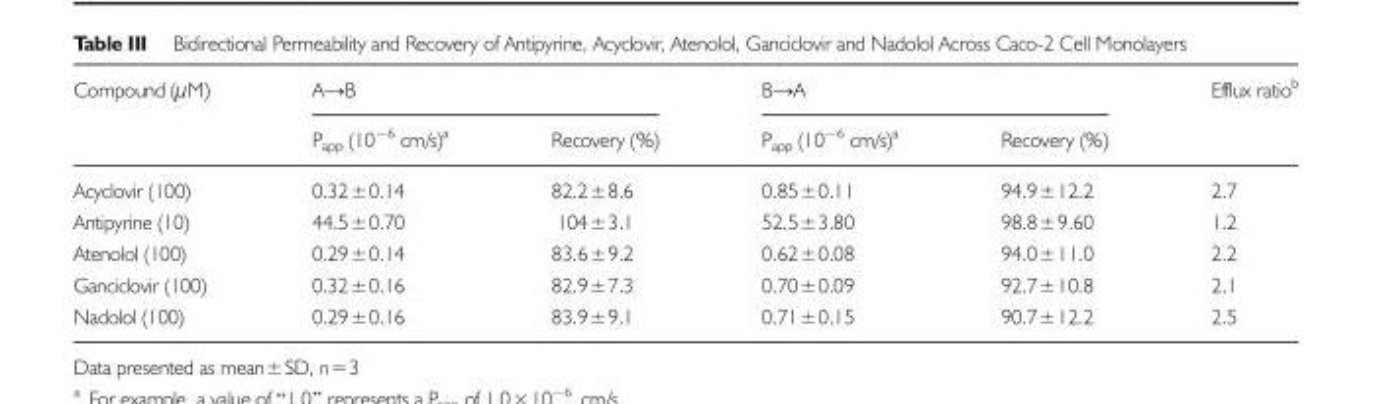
<table><thead><tr><td rowspan="2">Compound (μM)</td><td colspan="2">A→B</td><td colspan="2">B→A</td><td rowspan="2">Efflux ratio<sup>b</sup></td></tr><tr><td>P<sub>app</sub> (10<sup>−6</sup> cm/s)<sup>a</sup></td><td>Recovery (%)</td><td>P<sub>app</sub> (10<sup>−6</sup> cm/s)<sup>a</sup></td><td>Recovery (%)</td></tr></thead><tbody><tr><td>Acyclovir (100)</td><td>0.32±0.14</td><td>82.2±8.6</td><td>0.85±0.11</td><td>94.9±12.2</td><td>2.7</td></tr><tr><td>Antipyrine (10)</td><td>44.5±0.70</td><td>104±3.1</td><td>52.5±3.80</td><td>98.8±9.60</td><td>1.2</td></tr><tr><td>Atenolol (100)</td><td>0.29±0.14</td><td>83.6±9.2</td><td>0.62±0.08</td><td>94.0±11.0</td><td>2.2</td></tr><tr><td>Ganciclovir (100)</td><td>0.32±0.16</td><td>82.9±7.3</td><td>0.70±0.09</td><td>92.7±10.8</td><td>2.1</td></tr><tr><td>Nadolol (100)</td><td>0.29±0.16</td><td>83.9±9.1</td><td>0.71±0.15</td><td>90.7±12.2</td><td>2.5</td></tr></tbody></table>